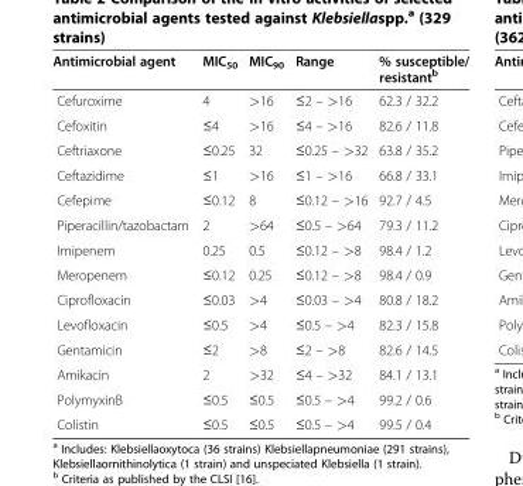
<table><thead><tr><td>Antimicrobial agent</td><td>MIC<sub>50</sub></td><td>MIC<sub>90</sub></td><td>Range</td><td>% susceptible/ resistant<sup>b</sup></td></tr></thead><tbody><tr><td>Cefuroxime</td><td>4</td><td>&gt;16</td><td>≤2 – &gt;16</td><td>62.3 / 32.2</td></tr><tr><td>Cefoxitin</td><td>≤4</td><td>&gt;16</td><td>≤4 – &gt;16</td><td>82.6 / 11.8</td></tr><tr><td>Ceftriaxone</td><td>≤0.25</td><td>32</td><td>≤0.25 – &gt;32</td><td>63.8 / 35.2</td></tr><tr><td>Ceftazidime</td><td>≤1</td><td>&gt;16</td><td>≤1 – &gt;16</td><td>66.8 / 33.1</td></tr><tr><td>Cefepime</td><td>≤0.12</td><td>8</td><td>≤0.12 – &gt;16</td><td>92.7 / 4.5</td></tr><tr><td>Piperacillin/tazobactam</td><td>2</td><td>&gt;64</td><td>≤0.5 – &gt;64</td><td>79.3 / 11.2</td></tr><tr><td>Imipenem</td><td>0.25</td><td>0.5</td><td>≤0.12 – &gt;8</td><td>98.4 / 1.2</td></tr><tr><td>Meropenem</td><td>≤0.12</td><td>0.25</td><td>≤0.12 – &gt;8</td><td>98.4 / 0.9</td></tr><tr><td>Ciprofloxacin</td><td>≤0.03</td><td>&gt;4</td><td>≤0.03 – &gt;4</td><td>80.8 / 18.2</td></tr><tr><td>Levofloxacin</td><td>≤0.5</td><td>&gt;4</td><td>≤0.5 – &gt;4</td><td>82.3 / 15.8</td></tr><tr><td>Gentamicin</td><td>≤2</td><td>&gt;8</td><td>≤2 – &gt;8</td><td>82.6 / 14.5</td></tr><tr><td>Amikacin</td><td>2</td><td>&gt;32</td><td>≤4 – &gt;32</td><td>84.1 / 13.1</td></tr><tr><td>PolymyxinB</td><td>≤0.5</td><td>≤0.5</td><td>≤0.5 – &gt;4</td><td>99.2 / 0.6</td></tr><tr><td>Colistin</td><td>≤0.5</td><td>≤0.5</td><td>≤0.5 – &gt;4</td><td>99.5 / 0.4</td></tr></tbody></table>